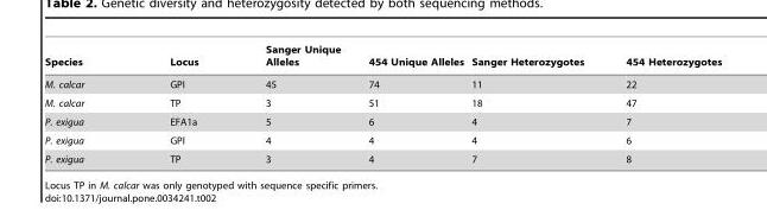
<table><thead><tr><td>Species</td><td>Locus</td><td>Sanger Unique Alleles</td><td>454 Unique Alleles</td><td>Sanger Heterozygotes</td><td>454 Heterozygotes</td></tr></thead><tbody><tr><td>M. calcar</td><td>GPI</td><td>45</td><td>74</td><td>11</td><td>22</td></tr><tr><td>M. calcar</td><td>TP</td><td>3</td><td>51</td><td>18</td><td>47</td></tr><tr><td>P. exigua</td><td>EFA1a</td><td>5</td><td>6</td><td>4</td><td>7</td></tr><tr><td>P. exigua</td><td>GPI</td><td>4</td><td>4</td><td>4</td><td>6</td></tr><tr><td>P. exigua</td><td>TP</td><td>3</td><td>4</td><td>7</td><td>8</td></tr></tbody></table>